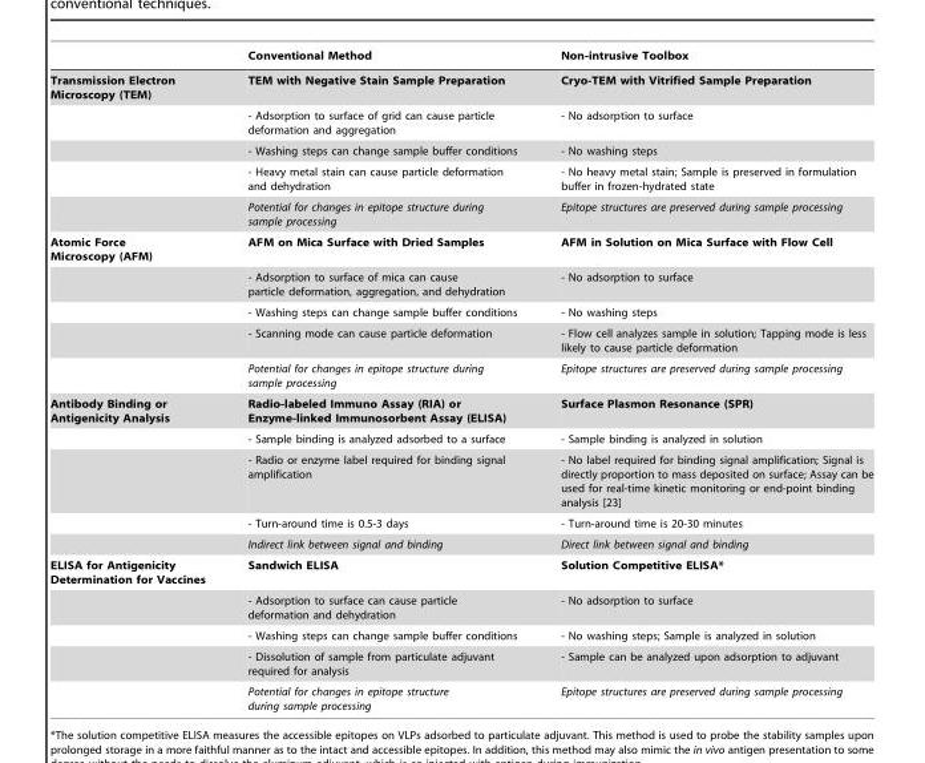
<table><thead><tr><td></td><td>Conventional Method</td><td>Non-intrusive Toolbox</td></tr></thead><tbody><tr><td rowspan="5">Transmission Electron Microscopy (TEM)</td><td>TEM with Negative Stain Sample Preparation</td><td>Cryo-TEM with Vitrified Sample Preparation</td></tr><tr><td>- Adsorption to surface of grid can cause particle deformation and aggregation</td><td>- No adsorption to surface</td></tr><tr><td>- Washing steps can change sample buffer conditions</td><td>- No washing steps</td></tr><tr><td>- Heavy metal stain can cause particle deformation and dehydration</td><td>- No heavy metal stain; Sample is preserved in formulation buffer in frozen-hydrated state</td></tr><tr><td>Potential for changes in epitope structure during sample processing</td><td>Epitope structures are preserved during sample processing</td></tr><tr><td rowspan="5">Atomic Force Microscopy (AFM)</td><td>AFM on Mica Surface with Dried Samples</td><td>AFM in Solution on Mica Surface with Flow Cell</td></tr><tr><td>- Adsorption to surface of mica can cause particle deformation, aggregation, and dehydration</td><td>- No adsorption to surface</td></tr><tr><td>- Washing steps can change sample buffer conditions</td><td>- No washing steps</td></tr><tr><td>- Scanning mode can cause particle deformation</td><td>- Flow cell analyzes sample in solution; Tapping mode is less likely to cause particle deformation</td></tr><tr><td>Potential for changes in epitope structure during sample processing</td><td>Epitope structures are preserved during sample processing</td></tr><tr><td rowspan="5">Antibody Binding or Antigenicity Analysis</td><td>Radio-labeled Immuno Assay (RIA) or Enzyme-linked Immunosorbent Assay (ELISA)</td><td>Surface Plasmon Resonance (SPR)</td></tr><tr><td>- Sample binding is analyzed adsorbed to a surface</td><td>- Sample binding is analyzed in solution</td></tr><tr><td>- Radio or enzyme label required for binding signal amplification</td><td>- No label required for binding signal amplification; Signal is directly proportion to mass deposited on surface; Assay can be used for real-time kinetic monitoring or end-point binding analysis [23]</td></tr><tr><td>- Turn-around time is 0.5-3 days</td><td>- Turn-around time is 20-30 minutes</td></tr><tr><td>Indirect link between signal and binding</td><td>Direct link between signal and binding</td></tr><tr><td rowspan="5">ELISA for Antigenicity Determination for Vaccines</td><td>Sandwich ELISA</td><td>Solution Competitive ELISA*</td></tr><tr><td>- Adsorption to surface can cause particle deformation and dehydration</td><td>- No adsorption to surface</td></tr><tr><td>- Washing steps can change sample buffer conditions</td><td>- No washing steps; Sample is analyzed in solution</td></tr><tr><td>- Dissolution of sample from particulate adjuvant required for analysis</td><td>- Sample can be analyzed upon adsorption to adjuvant</td></tr><tr><td>Potential for changes in epitope structure during sample processing</td><td>Epitope structures are preserved during sample processing</td></tr></tbody></table>